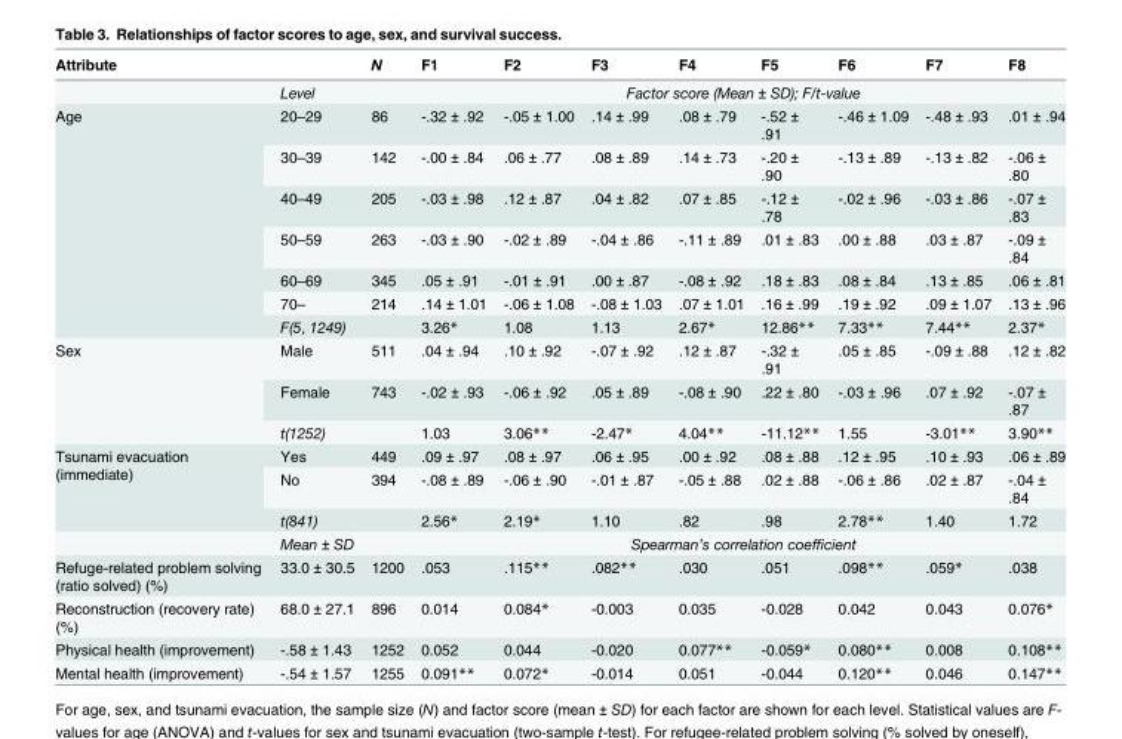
<table><thead><tr><td>Attribute</td><td></td><td>N</td><td>F1</td><td>F2</td><td>F3</td><td>F4</td><td>F5</td><td>F6</td><td>F7</td><td>F8</td></tr></thead><tbody><tr><td></td><td>Level</td><td></td><td colspan="8">Factor score (Mean ± SD); F/t-value</td></tr><tr><td rowspan="7">Age</td><td>20–29</td><td>86</td><td>-.32 ± .92</td><td>-.05 ± 1.00</td><td>.14 ± .99</td><td>.08 ± .79</td><td>-.52 ± .91</td><td>-.46 ± 1.09</td><td>-.48 ± .93</td><td>.01 ± .94</td></tr><tr><td>30–39</td><td>142</td><td>-.00 ± .84</td><td>.06 ± .77</td><td>.08 ± .89</td><td>.14 ± .73</td><td>-.20 ± .90</td><td>-.13 ± .89</td><td>-.13 ± .82</td><td>-.06 ± .80</td></tr><tr><td>40–49</td><td>205</td><td>-.03 ± .98</td><td>.12 ± .87</td><td>.04 ± .82</td><td>.07 ± .85</td><td>-.12 ± .78</td><td>-.02 ± .96</td><td>-.03 ± .86</td><td>-.07 ± .83</td></tr><tr><td>50–59</td><td>263</td><td>-.03 ± .90</td><td>-.02 ± .89</td><td>-.04 ± .86</td><td>-.11 ± .89</td><td>.01 ± .83</td><td>.00 ± .88</td><td>.03 ± .87</td><td>-.09 ± .84</td></tr><tr><td>60–69</td><td>345</td><td>.05 ± .91</td><td>-.01 ± .91</td><td>.00 ± .87</td><td>-.08 ± .92</td><td>.18 ± .83</td><td>.08 ± .84</td><td>.13 ± .85</td><td>.06 ± .81</td></tr><tr><td>70–</td><td>214</td><td>.14 ± 1.01</td><td>-.06 ± 1.08</td><td>-.08 ± 1.03</td><td>.07 ± 1.01</td><td>.16 ± .99</td><td>.19 ± .92</td><td>.09 ± 1.07</td><td>.13 ± .96</td></tr><tr><td>F(5, 1249)</td><td></td><td>3.26*</td><td>1.08</td><td>1.13</td><td>2.67*</td><td>12.86**</td><td>7.33**</td><td>7.44**</td><td>2.37*</td></tr><tr><td rowspan="3">Sex</td><td>Male</td><td>511</td><td>.04 ± .94</td><td>.10 ± .92</td><td>-.07 ± .92</td><td>.12 ± .87</td><td>-.32 ± .91</td><td>.05 ± .85</td><td>-.09 ± .88</td><td>.12 ± .82</td></tr><tr><td>Female</td><td>743</td><td>-.02 ± .93</td><td>-.06 ± .92</td><td>.05 ± .89</td><td>-.08 ± .90</td><td>.22 ± .80</td><td>-.03 ± .96</td><td>.07 ± .92</td><td>-.07 ± .87</td></tr><tr><td>t(1252)</td><td></td><td>1.03</td><td>3.06**</td><td>-2.47*</td><td>4.04**</td><td>-11.12**</td><td>1.55</td><td>-3.01**</td><td>3.90**</td></tr><tr><td rowspan="4">Tsunami evacuation (immediate)</td><td>Yes</td><td>449</td><td>.09 ± .97</td><td>.08 ± .97</td><td>.06 ± .95</td><td>.00 ± .92</td><td>.08 ± .88</td><td>.12 ± .95</td><td>.10 ± .93</td><td>.06 ± .89</td></tr><tr><td>No</td><td>394</td><td>-.08 ± .89</td><td>-.06 ± .90</td><td>-.01 ± .87</td><td>-.05 ± .88</td><td>.02 ± .88</td><td>-.06 ± .86</td><td>.02 ± .87</td><td>-.04 ± .84</td></tr><tr><td>t(841)</td><td></td><td>2.56*</td><td>2.19*</td><td>1.10</td><td>.82</td><td>.98</td><td>2.78**</td><td>1.40</td><td>1.72</td></tr><tr><td>Mean ± SD</td><td></td><td colspan="8">Spearman’s correlation coefficient</td></tr><tr><td>Refuge-related problem solving (ratio solved) (%)</td><td>33.0 ± 30.5</td><td>1200</td><td>.053</td><td>.115**</td><td>.082**</td><td>.030</td><td>.051</td><td>.098**</td><td>.059*</td><td>.038</td></tr><tr><td>Reconstruction (recovery rate) (%)</td><td>68.0 ± 27.1</td><td>896</td><td>0.014</td><td>0.084*</td><td>-0.003</td><td>0.035</td><td>-0.028</td><td>0.042</td><td>0.043</td><td>0.076*</td></tr><tr><td>Physical health (improvement)</td><td>-.58 ± 1.43</td><td>1252</td><td>0.052</td><td>0.044</td><td>-0.020</td><td>0.077**</td><td>-0.059*</td><td>0.080**</td><td>0.008</td><td>0.108**</td></tr><tr><td>Mental health (improvement)</td><td>-.54 ± 1.57</td><td>1255</td><td>0.091**</td><td>0.072*</td><td>-0.014</td><td>0.051</td><td>-0.044</td><td>0.120**</td><td>0.046</td><td>0.147**</td></tr></tbody></table>